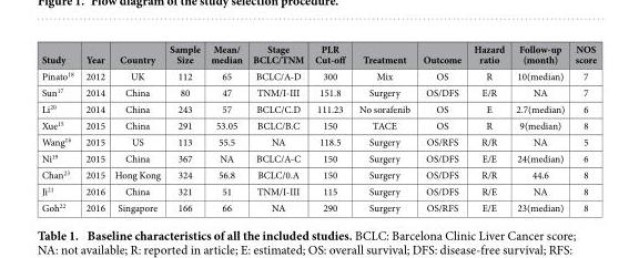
<table><thead><tr><td>Study</td><td>Year</td><td>Country</td><td>Sample Size</td><td>Mean/ median</td><td>Stage BCLC/TNM</td><td>PLR Cut-off</td><td>Treatment</td><td>Outcome</td><td>Hazard ratio</td><td>Follow-up (month)</td><td>NOS score</td></tr></thead><tbody><tr><td>Pinato<sup>18</sup></td><td>2012</td><td>UK</td><td>112</td><td>65</td><td>BCLC/A-D</td><td>300</td><td>Mix</td><td>OS</td><td>R</td><td>10(median)</td><td>7</td></tr><tr><td>Sun<sup>17</sup></td><td>2014</td><td>China</td><td>80</td><td>47</td><td>TNM/I-III</td><td>151.8</td><td>Surgery</td><td>OS/DFS</td><td>E/R</td><td>NA</td><td>7</td></tr><tr><td>Li<sup>20</sup></td><td>2014</td><td>China</td><td>243</td><td>57</td><td>BCLC/C.D</td><td>111.23</td><td>No sorafenib</td><td>OS</td><td>E</td><td>2.7(median)</td><td>6</td></tr><tr><td>Xue<sup>15</sup></td><td>2015</td><td>China</td><td>291</td><td>53.05</td><td>BCLC/B.C</td><td>150</td><td>TACE</td><td>OS</td><td>R</td><td>9(median)</td><td>8</td></tr><tr><td>Wang<sup>16</sup></td><td>2015</td><td>US</td><td>113</td><td>55.5</td><td>NA</td><td>118.5</td><td>Surgery</td><td>OS/RFS</td><td>R/R</td><td>NA</td><td>5</td></tr><tr><td>Ni<sup>19</sup></td><td>2015</td><td>China</td><td>367</td><td>NA</td><td>BCLC/A-C</td><td>150</td><td>Surgery</td><td>OS/DFS</td><td>E/E</td><td>24(median)</td><td>6</td></tr><tr><td>Chan<sup>23</sup></td><td>2015</td><td>Hong Kong</td><td>324</td><td>56.8</td><td>BCLC/0.A</td><td>150</td><td>Surgery</td><td>OS/DFS</td><td>R/R</td><td>44.6</td><td>8</td></tr><tr><td>Ji<sup>21</sup></td><td>2016</td><td>China</td><td>321</td><td>51</td><td>TNM/I-III</td><td>115</td><td>Surgery</td><td>OS/DFS</td><td>R/E</td><td>NA</td><td>8</td></tr><tr><td>Goh<sup>22</sup></td><td>2016</td><td>Singapore</td><td>166</td><td>66</td><td>NA</td><td>290</td><td>Surgery</td><td>OS/RFS</td><td>E/E</td><td>23(median)</td><td>8</td></tr></tbody></table>